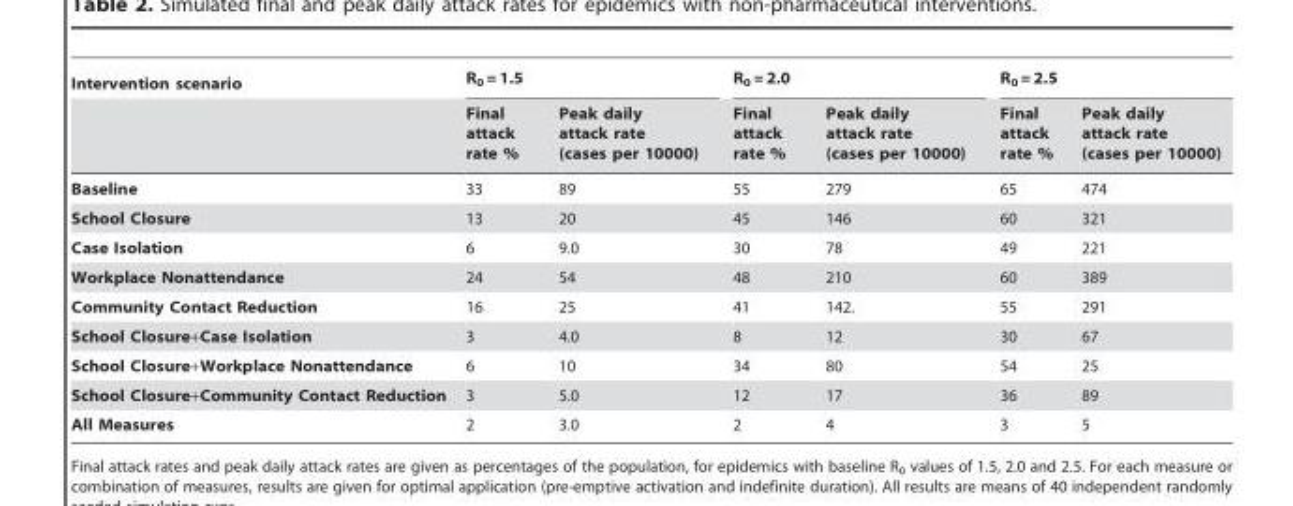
<table><thead><tr><td rowspan="2">Intervention scenario</td><td colspan="2">R<sub>0</sub> = 1.5</td><td colspan="2">R<sub>0</sub> = 2.0</td><td colspan="2">R<sub>0</sub> = 2.5</td></tr><tr><td>Final attack rate %</td><td>Peak daily attack rate (cases per 10000)</td><td>Final attack rate %</td><td>Peak daily attack rate (cases per 10000)</td><td>Final attack rate %</td><td>Peak daily attack rate (cases per 10000)</td></tr></thead><tbody><tr><td>Baseline</td><td>33</td><td>89</td><td>55</td><td>279</td><td>65</td><td>474</td></tr><tr><td>School Closure</td><td>13</td><td>20</td><td>45</td><td>146</td><td>60</td><td>321</td></tr><tr><td>Case Isolation</td><td>6</td><td>9.0</td><td>30</td><td>78</td><td>49</td><td>221</td></tr><tr><td>Workplace Nonattendance</td><td>24</td><td>54</td><td>48</td><td>210</td><td>60</td><td>389</td></tr><tr><td>Community Contact Reduction</td><td>16</td><td>25</td><td>41</td><td>142.</td><td>55</td><td>291</td></tr><tr><td>School Closure+Case Isolation</td><td>3</td><td>4.0</td><td>8</td><td>12</td><td>30</td><td>67</td></tr><tr><td>School Closure+Workplace Nonattendance</td><td>6</td><td>10</td><td>34</td><td>80</td><td>54</td><td>25</td></tr><tr><td>School Closure+Community Contact Reduction</td><td>3</td><td>5.0</td><td>12</td><td>17</td><td>36</td><td>89</td></tr><tr><td>All Measures</td><td>2</td><td>3.0</td><td>2</td><td>4</td><td>3</td><td>5</td></tr></tbody></table>